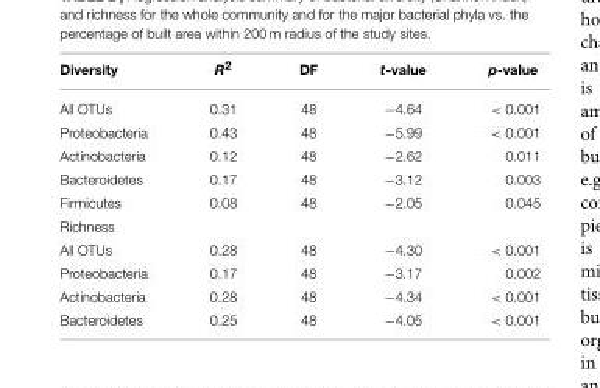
<table><thead><tr><td>Diversity</td><td>R<sup>2</sup></td><td>DF</td><td>t-value</td><td>p-value</td></tr></thead><tbody><tr><td>All OTUs</td><td>0.31</td><td>48</td><td>−4.64</td><td>&lt; 0.001</td></tr><tr><td>Proteobacteria</td><td>0.43</td><td>48</td><td>−5.99</td><td>&lt; 0.001</td></tr><tr><td>Actinobacteria</td><td>0.12</td><td>48</td><td>−2.62</td><td>0.011</td></tr><tr><td>Bacteroidetes</td><td>0.17</td><td>48</td><td>−3.12</td><td>0.003</td></tr><tr><td>Firmicutes</td><td>0.08</td><td>48</td><td>−2.05</td><td>0.045</td></tr><tr><td colspan="5">Richness</td></tr><tr><td>All OTUs</td><td>0.28</td><td>48</td><td>−4.30</td><td>&lt; 0.001</td></tr><tr><td>Proteobacteria</td><td>0.17</td><td>48</td><td>−3.17</td><td>0.002</td></tr><tr><td>Actinobacteria</td><td>0.28</td><td>48</td><td>−4.34</td><td>&lt; 0.001</td></tr><tr><td>Bacteroidetes</td><td>0.25</td><td>48</td><td>−4.05</td><td>&lt; 0.001</td></tr></tbody></table>